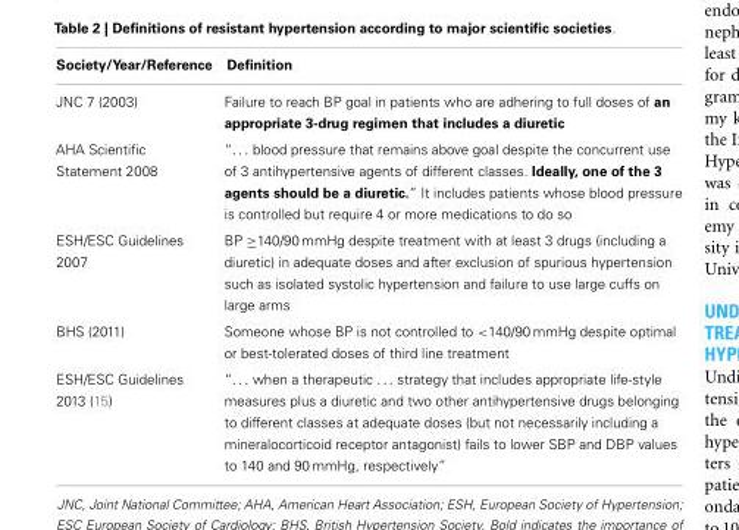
<table><thead><tr><td>Society/Year/Reference</td><td>Definition</td></tr></thead><tbody><tr><td>JNC 7 (2003)</td><td>Failure to reach BP goal in patients who are adhering to full doses of an appropriate 3-drug regimen that includes a diuretic</td></tr><tr><td>AHA Scientific Statement 2008</td><td>“. . . blood pressure that remains above goal despite the concurrent use of 3 antihypertensive agents of different classes. Ideally, one of the 3 agents should be a diuretic.” It includes patients whose blood pressure is controlled but require 4 or more medications to do so</td></tr><tr><td>ESH/ESC Guidelines 2007</td><td>BP ≥140/90 mmHg despite treatment with at least 3 drugs (including a diuretic) in adequate doses and after exclusion of spurious hypertension such as isolated systolic hypertension and failure to use large cuffs on large arms</td></tr><tr><td>BHS (2011)</td><td>Someone whose BP is not controlled to &lt;140/90 mmHg despite optimal or best-tolerated doses of third line treatment</td></tr><tr><td>ESH/ESC Guidelines 2013 (15)</td><td>“. . . when a therapeutic . . . strategy that includes appropriate life-style measures plus a diuretic and two other antihypertensive drugs belonging to different classes at adequate doses (but not necessarily including a mineralocorticoid receptor antagonist) fails to lower SBP and DBP values to 140 and 90 mmHg, respectively”</td></tr></tbody></table>